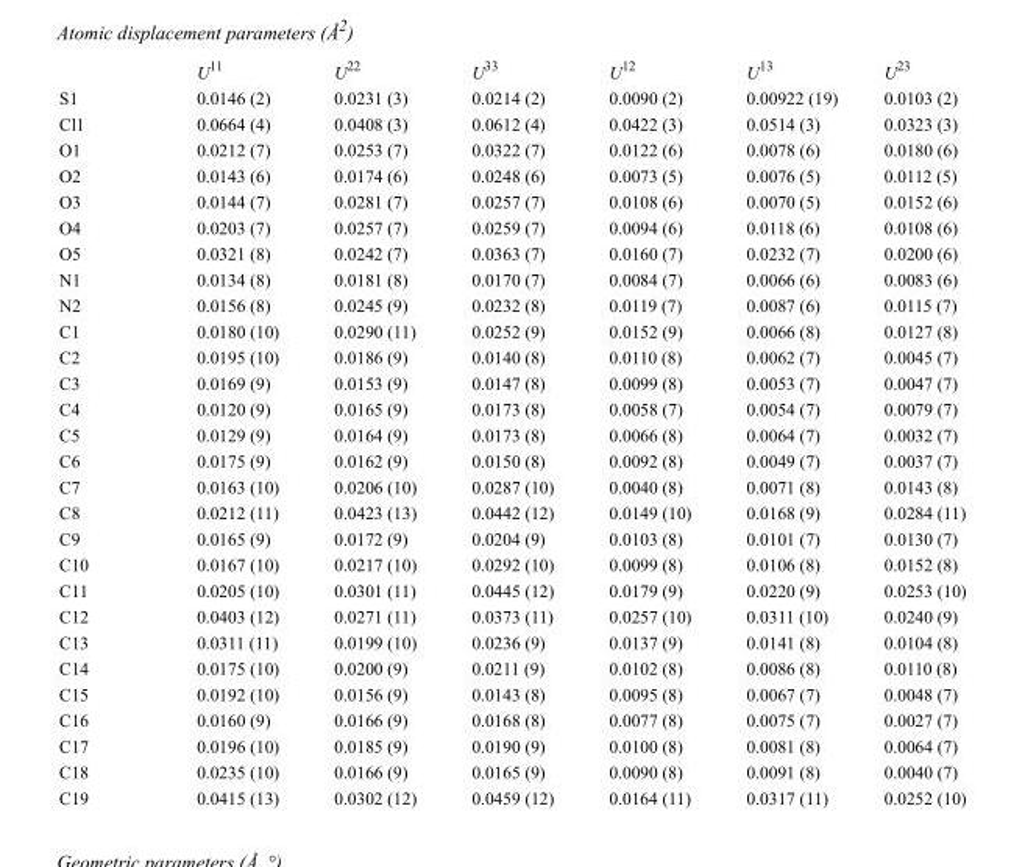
<table><thead><tr><td></td><td>U<sup>11</sup></td><td>U<sup>22</sup></td><td>U<sup>33</sup></td><td>U<sup>12</sup></td><td>U<sup>13</sup></td><td>U<sup>23</sup></td></tr></thead><tbody><tr><td>S1</td><td>0.0146 (2)</td><td>0.0231 (3)</td><td>0.0214 (2)</td><td>0.0090 (2)</td><td>0.00922 (19)</td><td>0.0103 (2)</td></tr><tr><td>Cl1</td><td>0.0664 (4)</td><td>0.0408 (3)</td><td>0.0612 (4)</td><td>0.0422 (3)</td><td>0.0514 (3)</td><td>0.0323 (3)</td></tr><tr><td>O1</td><td>0.0212 (7)</td><td>0.0253 (7)</td><td>0.0322 (7)</td><td>0.0122 (6)</td><td>0.0078 (6)</td><td>0.0180 (6)</td></tr><tr><td>O2</td><td>0.0143 (6)</td><td>0.0174 (6)</td><td>0.0248 (6)</td><td>0.0073 (5)</td><td>0.0076 (5)</td><td>0.0112 (5)</td></tr><tr><td>O3</td><td>0.0144 (7)</td><td>0.0281 (7)</td><td>0.0257 (7)</td><td>0.0108 (6)</td><td>0.0070 (5)</td><td>0.0152 (6)</td></tr><tr><td>O4</td><td>0.0203 (7)</td><td>0.0257 (7)</td><td>0.0259 (7)</td><td>0.0094 (6)</td><td>0.0118 (6)</td><td>0.0108 (6)</td></tr><tr><td>O5</td><td>0.0321 (8)</td><td>0.0242 (7)</td><td>0.0363 (7)</td><td>0.0160 (7)</td><td>0.0232 (7)</td><td>0.0200 (6)</td></tr><tr><td>N1</td><td>0.0134 (8)</td><td>0.0181 (8)</td><td>0.0170 (7)</td><td>0.0084 (7)</td><td>0.0066 (6)</td><td>0.0083 (6)</td></tr><tr><td>N2</td><td>0.0156 (8)</td><td>0.0245 (9)</td><td>0.0232 (8)</td><td>0.0119 (7)</td><td>0.0087 (6)</td><td>0.0115 (7)</td></tr><tr><td>C1</td><td>0.0180 (10)</td><td>0.0290 (11)</td><td>0.0252 (9)</td><td>0.0152 (9)</td><td>0.0066 (8)</td><td>0.0127 (8)</td></tr><tr><td>C2</td><td>0.0195 (10)</td><td>0.0186 (9)</td><td>0.0140 (8)</td><td>0.0110 (8)</td><td>0.0062 (7)</td><td>0.0045 (7)</td></tr><tr><td>C3</td><td>0.0169 (9)</td><td>0.0153 (9)</td><td>0.0147 (8)</td><td>0.0099 (8)</td><td>0.0053 (7)</td><td>0.0047 (7)</td></tr><tr><td>C4</td><td>0.0120 (9)</td><td>0.0165 (9)</td><td>0.0173 (8)</td><td>0.0058 (7)</td><td>0.0054 (7)</td><td>0.0079 (7)</td></tr><tr><td>C5</td><td>0.0129 (9)</td><td>0.0164 (9)</td><td>0.0173 (8)</td><td>0.0066 (8)</td><td>0.0064 (7)</td><td>0.0032 (7)</td></tr><tr><td>C6</td><td>0.0175 (9)</td><td>0.0162 (9)</td><td>0.0150 (8)</td><td>0.0092 (8)</td><td>0.0049 (7)</td><td>0.0037 (7)</td></tr><tr><td>C7</td><td>0.0163 (10)</td><td>0.0206 (10)</td><td>0.0287 (10)</td><td>0.0040 (8)</td><td>0.0071 (8)</td><td>0.0143 (8)</td></tr><tr><td>C8</td><td>0.0212 (11)</td><td>0.0423 (13)</td><td>0.0442 (12)</td><td>0.0149 (10)</td><td>0.0168 (9)</td><td>0.0284 (11)</td></tr><tr><td>C9</td><td>0.0165 (9)</td><td>0.0172 (9)</td><td>0.0204 (9)</td><td>0.0103 (8)</td><td>0.0101 (7)</td><td>0.0130 (7)</td></tr><tr><td>C10</td><td>0.0167 (10)</td><td>0.0217 (10)</td><td>0.0292 (10)</td><td>0.0099 (8)</td><td>0.0106 (8)</td><td>0.0152 (8)</td></tr><tr><td>C11</td><td>0.0205 (10)</td><td>0.0301 (11)</td><td>0.0445 (12)</td><td>0.0179 (9)</td><td>0.0220 (9)</td><td>0.0253 (10)</td></tr><tr><td>C12</td><td>0.0403 (12)</td><td>0.0271 (11)</td><td>0.0373 (11)</td><td>0.0257 (10)</td><td>0.0311 (10)</td><td>0.0240 (9)</td></tr><tr><td>C13</td><td>0.0311 (11)</td><td>0.0199 (10)</td><td>0.0236 (9)</td><td>0.0137 (9)</td><td>0.0141 (8)</td><td>0.0104 (8)</td></tr><tr><td>C14</td><td>0.0175 (10)</td><td>0.0200 (9)</td><td>0.0211 (9)</td><td>0.0102 (8)</td><td>0.0086 (8)</td><td>0.0110 (8)</td></tr><tr><td>C15</td><td>0.0192 (10)</td><td>0.0156 (9)</td><td>0.0143 (8)</td><td>0.0095 (8)</td><td>0.0067 (7)</td><td>0.0048 (7)</td></tr><tr><td>C16</td><td>0.0160 (9)</td><td>0.0166 (9)</td><td>0.0168 (8)</td><td>0.0077 (8)</td><td>0.0075 (7)</td><td>0.0027 (7)</td></tr><tr><td>C17</td><td>0.0196 (10)</td><td>0.0185 (9)</td><td>0.0190 (9)</td><td>0.0100 (8)</td><td>0.0081 (8)</td><td>0.0064 (7)</td></tr><tr><td>C18</td><td>0.0235 (10)</td><td>0.0166 (9)</td><td>0.0165 (9)</td><td>0.0090 (8)</td><td>0.0091 (8)</td><td>0.0040 (7)</td></tr><tr><td>C19</td><td>0.0415 (13)</td><td>0.0302 (12)</td><td>0.0459 (12)</td><td>0.0164 (11)</td><td>0.0317 (11)</td><td>0.0252 (10)</td></tr></tbody></table>